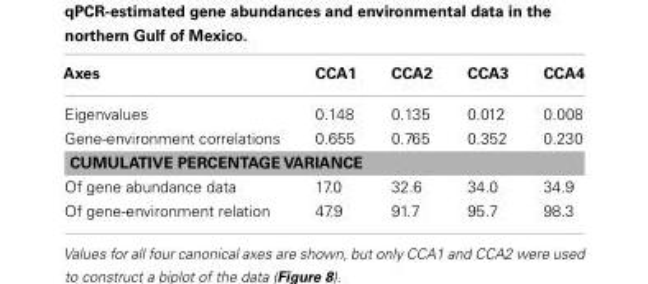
<table><thead><tr><td>Axes</td><td>CCA1</td><td>CCA2</td><td>CCA3</td><td>CCA4</td></tr></thead><tbody><tr><td>Eigenvalues</td><td>0.148</td><td>0.135</td><td>0.012</td><td>0.008</td></tr><tr><td>Gene-environment correlations</td><td>0.655</td><td>0.765</td><td>0.352</td><td>0.230</td></tr><tr><td colspan="5">CUMULATIVE PERCENTAGE VARIANCE</td></tr><tr><td>Of gene abundance data</td><td>17.0</td><td>32.6</td><td>34.0</td><td>34.9</td></tr><tr><td>Of gene-environment relation</td><td>47.9</td><td>91.7</td><td>95.7</td><td>98.3</td></tr></tbody></table>